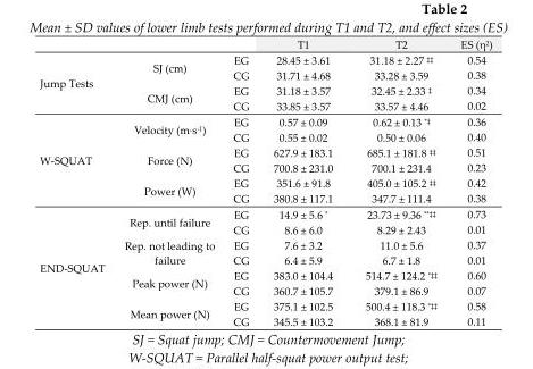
<table><thead><tr><td></td><td></td><td></td><td>T1</td><td>T2</td><td>ES (η<sup>2</sup>)</td></tr></thead><tbody><tr><td rowspan="4">Jump Tests</td><td rowspan="2">SJ (cm)</td><td>EG</td><td>28.45 ± 3.61</td><td>31.18 ± 2.27 <sup>‡‡</sup></td><td>0.54</td></tr><tr><td>CG</td><td>31.71 ± 4.68</td><td>33.28 ± 3.59</td><td>0.38</td></tr><tr><td rowspan="2">CMJ (cm)</td><td>EG</td><td>31.18 ± 3.57</td><td>32.45 ± 2.33 <sup>‡</sup></td><td>0.34</td></tr><tr><td>CG</td><td>33.85 ± 3.57</td><td>33.57 ± 4.46</td><td>0.02</td></tr><tr><td rowspan="6">W-SQUAT</td><td rowspan="2">Velocity (m·s<sup>-1</sup>)</td><td>EG</td><td>0.57 ± 0.09</td><td>0.62 ± 0.13 <sup>*‡</sup></td><td>0.36</td></tr><tr><td>CG</td><td>0.55 ± 0.02</td><td>0.50 ± 0.06</td><td>0.40</td></tr><tr><td rowspan="2">Force (N)</td><td>EG</td><td>627.9 ± 183.1</td><td>685.1 ± 181.8 <sup>‡‡</sup></td><td>0.51</td></tr><tr><td>CG</td><td>700.8 ± 231.0</td><td>700.1 ± 231.4</td><td>0.23</td></tr><tr><td rowspan="2">Power (W)</td><td>EG</td><td>351.6 ± 91.8</td><td>405.0 ± 105.2 <sup>‡‡</sup></td><td>0.42</td></tr><tr><td>CG</td><td>380.8 ± 117.1</td><td>347.7 ± 111.4</td><td>0.38</td></tr><tr><td rowspan="8">END-SQUAT</td><td rowspan="2">Rep. until failure</td><td>EG</td><td>14.9 ± 5.6 *</td><td>23.73 ± 9.36 <sup>**‡‡</sup></td><td>0.73</td></tr><tr><td>CG</td><td>8.6 ± 6.0</td><td>8.29 ± 2.43</td><td>0.01</td></tr><tr><td rowspan="2">Rep. not leading to failure</td><td>EG</td><td>7.6 ± 3.2</td><td>11.0 ± 5.6</td><td>0.37</td></tr><tr><td>CG</td><td>6.4 ± 5.9</td><td>6.7 ± 1.8</td><td>0.01</td></tr><tr><td rowspan="2">Peak power (N)</td><td>EG</td><td>383.0 ± 104.4</td><td>514.7 ± 124.2 <sup>*‡‡</sup></td><td>0.60</td></tr><tr><td>CG</td><td>360.7 ± 105.7</td><td>379.1 ± 86.9</td><td>0.07</td></tr><tr><td rowspan="2">Mean power (N)</td><td>EG</td><td>375.1 ± 102.5</td><td>500.4 ± 118.3 <sup>*‡‡</sup></td><td>0.58</td></tr><tr><td>CG</td><td>345.5 ± 103.2</td><td>368.1 ± 81.9</td><td>0.11</td></tr></tbody></table>